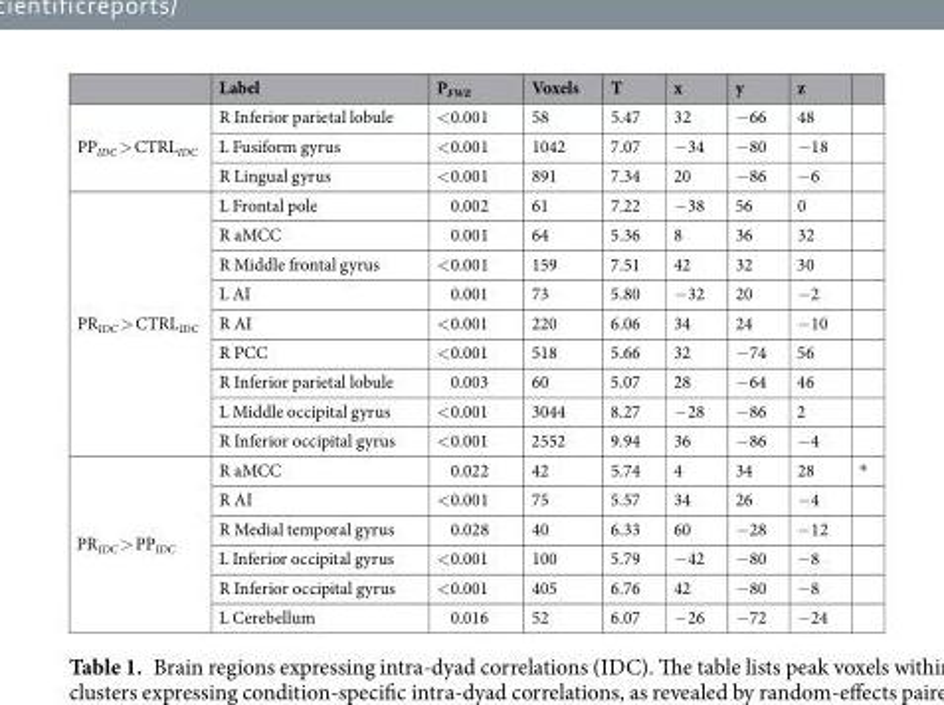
<table><thead><tr><td></td><td>Label</td><td>P<sub>FWE</sub></td><td>Voxels</td><td>T</td><td>x</td><td>y</td><td>z</td><td></td></tr></thead><tbody><tr><td rowspan="3">PP<sub>IDC</sub> &gt; CTRL<sub>IDC</sub></td><td>R Inferior parietal lobule</td><td>&lt;0.001</td><td>58</td><td>5.47</td><td>32</td><td>−66</td><td>48</td><td></td></tr><tr><td>L Fusiform gyrus</td><td>&lt;0.001</td><td>1042</td><td>7.07</td><td>−34</td><td>−80</td><td>−18</td><td></td></tr><tr><td>R Lingual gyrus</td><td>&lt;0.001</td><td>891</td><td>7.34</td><td>20</td><td>−86</td><td>−6</td><td></td></tr><tr><td rowspan="9">PR<sub>IDC</sub> &gt; CTRL<sub>IDC</sub></td><td>L Frontal pole</td><td>0.002</td><td>61</td><td>7.22</td><td>−38</td><td>56</td><td>0</td><td></td></tr><tr><td>R aMCC</td><td>0.001</td><td>64</td><td>5.36</td><td>8</td><td>36</td><td>32</td><td></td></tr><tr><td>R Middle frontal gyrus</td><td>&lt;0.001</td><td>159</td><td>7.51</td><td>42</td><td>32</td><td>30</td><td></td></tr><tr><td>L AI</td><td>0.001</td><td>73</td><td>5.80</td><td>−32</td><td>20</td><td>−2</td><td></td></tr><tr><td>R AI</td><td>&lt;0.001</td><td>220</td><td>6.06</td><td>34</td><td>24</td><td>−10</td><td></td></tr><tr><td>R PCC</td><td>&lt;0.001</td><td>518</td><td>5.66</td><td>32</td><td>−74</td><td>56</td><td></td></tr><tr><td>R Inferior parietal lobule</td><td>0.003</td><td>60</td><td>5.07</td><td>28</td><td>−64</td><td>46</td><td></td></tr><tr><td>L Middle occipital gyrus</td><td>&lt;0.001</td><td>3044</td><td>8.27</td><td>−28</td><td>−86</td><td>2</td><td></td></tr><tr><td>R Inferior occipital gyrus</td><td>&lt;0.001</td><td>2552</td><td>9.94</td><td>36</td><td>−86</td><td>−4</td><td></td></tr><tr><td rowspan="6">PR<sub>IDC</sub> &gt; PP<sub>IDC</sub></td><td>R aMCC</td><td>0.022</td><td>42</td><td>5.74</td><td>4</td><td>34</td><td>28</td><td>*</td></tr><tr><td>R AI</td><td>&lt;0.001</td><td>75</td><td>5.57</td><td>34</td><td>26</td><td>−4</td><td></td></tr><tr><td>R Medial temporal gyrus</td><td>0.028</td><td>40</td><td>6.33</td><td>60</td><td>−28</td><td>−12</td><td></td></tr><tr><td>L Inferior occipital gyrus</td><td>&lt;0.001</td><td>100</td><td>5.79</td><td>−42</td><td>−80</td><td>−8</td><td></td></tr><tr><td>R Inferior occipital gyrus</td><td>&lt;0.001</td><td>405</td><td>6.76</td><td>42</td><td>−80</td><td>−8</td><td></td></tr><tr><td>L Cerebellum</td><td>0.016</td><td>52</td><td>6.07</td><td>−26</td><td>−72</td><td>−24</td><td></td></tr></tbody></table>